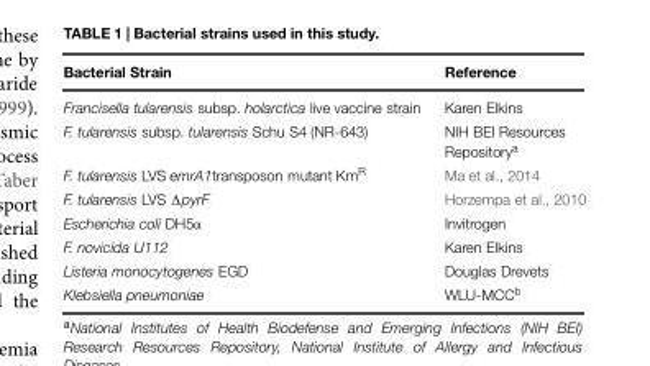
<table><thead><tr><td>Bacterial Strain</td><td>Reference</td></tr></thead><tbody><tr><td>Francisella tularensis subsp. holarctica live vaccine strain</td><td>Karen Elkins</td></tr><tr><td>F. tularensis subsp. tularensis Schu S4 (NR-643)</td><td>NIH BEI Resources Repository<sup>a</sup></td></tr><tr><td>F. tularensis LVS emrA1transposon mutant Km<sup>R</sup></td><td>Ma et al., 2014</td></tr><tr><td>F. tularensis LVS ΔpyrF</td><td>Horzempa et al., 2010</td></tr><tr><td>Escherichia coli DH5α</td><td>Invitrogen</td></tr><tr><td>F. novicida U112</td><td>Karen Elkins</td></tr><tr><td>Listeria monocytogenes EGD</td><td>Douglas Drevets</td></tr><tr><td>Klebsiella pneumoniae</td><td>WLU-MCC<sup>b</sup></td></tr></tbody></table>